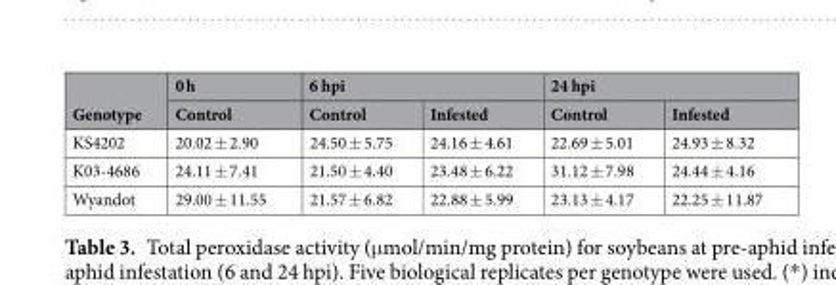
<table><thead><tr><td rowspan="2">Genotype</td><td rowspan="2">0 h Control</td><td colspan="2">6 hpi</td><td colspan="2">24 hpi</td></tr><tr><td>Control</td><td>Infested</td><td>Control</td><td>Infested</td></tr></thead><tbody><tr><td>KS4202</td><td>20.02 ± 2.90</td><td>24.50 ± 5.75</td><td>24.16 ± 4.61</td><td>22.69 ± 5.01</td><td>24.93 ± 8.32</td></tr><tr><td>K03-4686</td><td>24.11 ± 7.41</td><td>21.50 ± 4.40</td><td>23.48 ± 6.22</td><td>31.12 ± 7.98</td><td>24.44 ± 4.16</td></tr><tr><td>Wyandot</td><td>29.00 ± 11.55</td><td>21.57 ± 6.82</td><td>22.88 ± 5.99</td><td>23.13 ± 4.17</td><td>22.25 ± 11.87</td></tr></tbody></table>